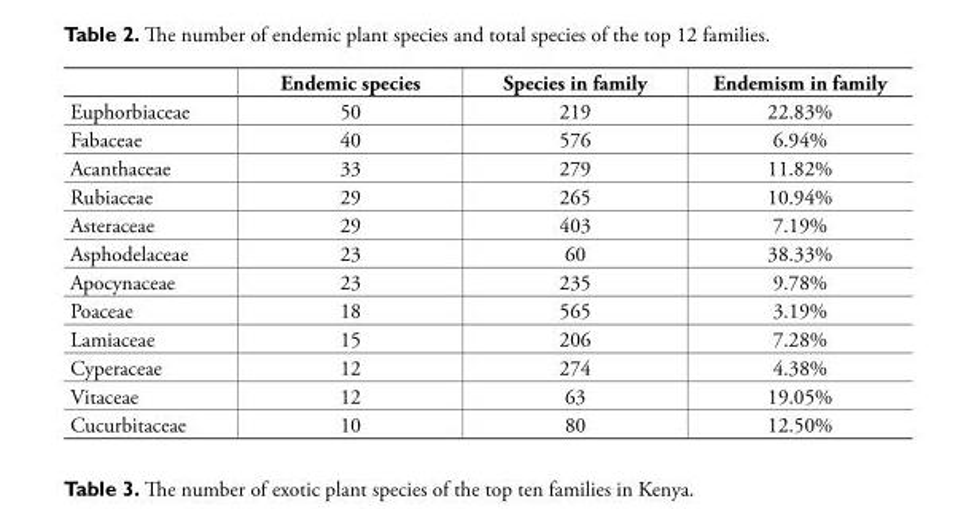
<table><thead><tr><td></td><td>Endemic species</td><td>Species in family</td><td>Endemism in family</td></tr></thead><tbody><tr><td>Euphorbiaceae</td><td>50</td><td>219</td><td>22.83%</td></tr><tr><td>Fabaceae</td><td>40</td><td>576</td><td>6.94%</td></tr><tr><td>Acanthaceae</td><td>33</td><td>279</td><td>11.82%</td></tr><tr><td>Rubiaceae</td><td>29</td><td>265</td><td>10.94%</td></tr><tr><td>Asteraceae</td><td>29</td><td>403</td><td>7.19%</td></tr><tr><td>Asphodelaceae</td><td>23</td><td>60</td><td>38.33%</td></tr><tr><td>Apocynaceae</td><td>23</td><td>235</td><td>9.78%</td></tr><tr><td>Poaceae</td><td>18</td><td>565</td><td>3.19%</td></tr><tr><td>Lamiaceae</td><td>15</td><td>206</td><td>7.28%</td></tr><tr><td>Cyperaceae</td><td>12</td><td>274</td><td>4.38%</td></tr><tr><td>Vitaceae</td><td>12</td><td>63</td><td>19.05%</td></tr><tr><td>Cucurbitaceae</td><td>10</td><td>80</td><td>12.50%</td></tr></tbody></table>